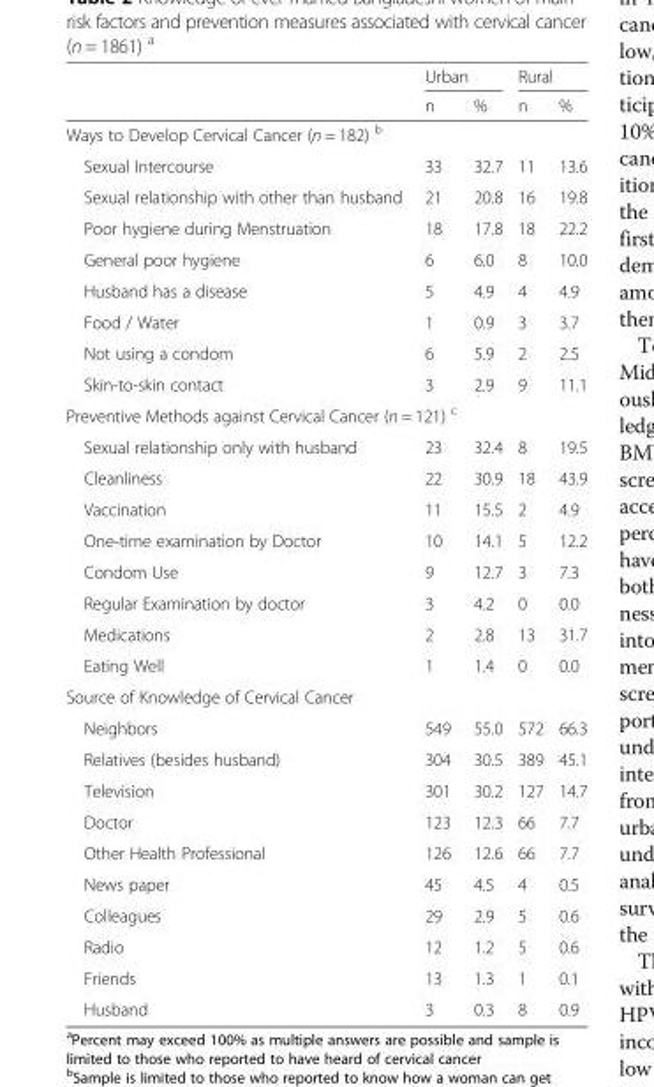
<table><thead><tr><td rowspan="2"></td><td colspan="2">Urban</td><td colspan="2">Rural</td></tr><tr><td>n</td><td>%</td><td>n</td><td>%</td></tr></thead><tbody><tr><td colspan="5">Ways to Develop Cervical Cancer (n = 182) <sup>b</sup></td></tr><tr><td>Sexual Intercourse</td><td>33</td><td>32.7</td><td>11</td><td>13.6</td></tr><tr><td>Sexual relationship with other than husband</td><td>21</td><td>20.8</td><td>16</td><td>19.8</td></tr><tr><td>Poor hygiene during Menstruation</td><td>18</td><td>17.8</td><td>18</td><td>22.2</td></tr><tr><td>General poor hygiene</td><td>6</td><td>6.0</td><td>8</td><td>10.0</td></tr><tr><td>Husband has a disease</td><td>5</td><td>4.9</td><td>4</td><td>4.9</td></tr><tr><td>Food / Water</td><td>1</td><td>0.9</td><td>3</td><td>3.7</td></tr><tr><td>Not using a condom</td><td>6</td><td>5.9</td><td>2</td><td>2.5</td></tr><tr><td>Skin-to-skin contact</td><td>3</td><td>2.9</td><td>9</td><td>11.1</td></tr><tr><td colspan="5">Preventive Methods against Cervical Cancer (n = 121) <sup>c</sup></td></tr><tr><td>Sexual relationship only with husband</td><td>23</td><td>32.4</td><td>8</td><td>19.5</td></tr><tr><td>Cleanliness</td><td>22</td><td>30.9</td><td>18</td><td>43.9</td></tr><tr><td>Vaccination</td><td>11</td><td>15.5</td><td>2</td><td>4.9</td></tr><tr><td>One-time examination by Doctor</td><td>10</td><td>14.1</td><td>5</td><td>12.2</td></tr><tr><td>Condom Use</td><td>9</td><td>12.7</td><td>3</td><td>7.3</td></tr><tr><td>Regular Examination by doctor</td><td>3</td><td>4.2</td><td>0</td><td>0.0</td></tr><tr><td>Medications</td><td>2</td><td>2.8</td><td>13</td><td>31.7</td></tr><tr><td>Eating Well</td><td>1</td><td>1.4</td><td>0</td><td>0.0</td></tr><tr><td colspan="5">Source of Knowledge of Cervical Cancer</td></tr><tr><td>Neighbors</td><td>549</td><td>55.0</td><td>572</td><td>66.3</td></tr><tr><td>Relatives (besides husband)</td><td>304</td><td>30.5</td><td>389</td><td>45.1</td></tr><tr><td>Television</td><td>301</td><td>30.2</td><td>127</td><td>14.7</td></tr><tr><td>Doctor</td><td>123</td><td>12.3</td><td>66</td><td>7.7</td></tr><tr><td>Other Health Professional</td><td>126</td><td>12.6</td><td>66</td><td>7.7</td></tr><tr><td>News paper</td><td>45</td><td>4.5</td><td>4</td><td>0.5</td></tr><tr><td>Colleagues</td><td>29</td><td>2.9</td><td>5</td><td>0.6</td></tr><tr><td>Radio</td><td>12</td><td>1.2</td><td>5</td><td>0.6</td></tr><tr><td>Friends</td><td>13</td><td>1.3</td><td>1</td><td>0.1</td></tr><tr><td>Husband</td><td>3</td><td>0.3</td><td>8</td><td>0.9</td></tr></tbody></table>